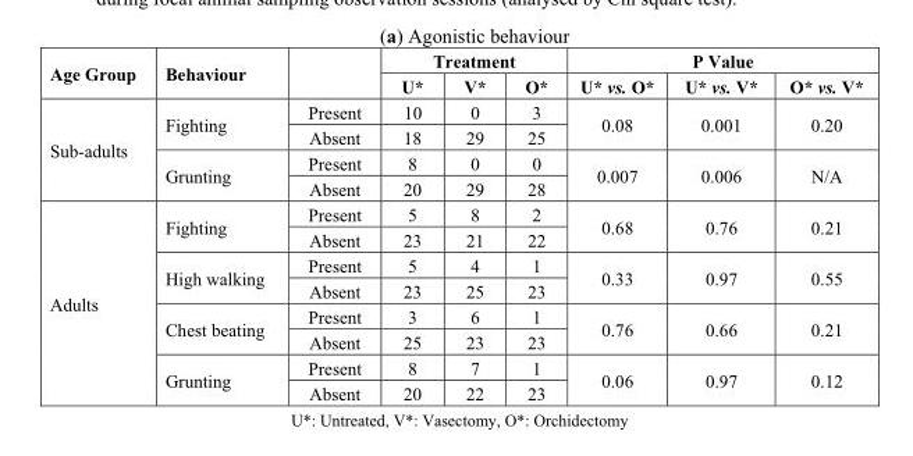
<table><thead><tr><td rowspan="2">Age Group</td><td rowspan="2">Behaviour</td><td rowspan="2"></td><td colspan="3">Treatment</td><td colspan="3">P Value</td></tr><tr><td>U*</td><td>V*</td><td>O*</td><td>U* vs. O*</td><td>U* vs. V*</td><td>O* vs. V*</td></tr></thead><tbody><tr><td rowspan="4">Sub-adults</td><td rowspan="2">Fighting</td><td>Present</td><td>10</td><td>0</td><td>3</td><td rowspan="2">0.08</td><td rowspan="2">0.001</td><td rowspan="2">0.20</td></tr><tr><td>Absent</td><td>18</td><td>29</td><td>25</td></tr><tr><td rowspan="2">Grunting</td><td>Present</td><td>8</td><td>0</td><td>0</td><td rowspan="2">0.007</td><td rowspan="2">0.006</td><td rowspan="2">N/A</td></tr><tr><td>Absent</td><td>20</td><td>29</td><td>28</td></tr><tr><td rowspan="8">Adults</td><td rowspan="2">Fighting</td><td>Present</td><td>5</td><td>8</td><td>2</td><td rowspan="2">0.68</td><td rowspan="2">0.76</td><td rowspan="2">0.21</td></tr><tr><td>Absent</td><td>23</td><td>21</td><td>22</td></tr><tr><td rowspan="2">High walking</td><td>Present</td><td>5</td><td>4</td><td>1</td><td rowspan="2">0.33</td><td rowspan="2">0.97</td><td rowspan="2">0.55</td></tr><tr><td>Absent</td><td>23</td><td>25</td><td>23</td></tr><tr><td rowspan="2">Chest beating</td><td>Present</td><td>3</td><td>6</td><td>1</td><td rowspan="2">0.76</td><td rowspan="2">0.66</td><td rowspan="2">0.21</td></tr><tr><td>Absent</td><td>25</td><td>23</td><td>23</td></tr><tr><td rowspan="2">Grunting</td><td>Present</td><td>8</td><td>7</td><td>1</td><td rowspan="2">0.06</td><td rowspan="2">0.97</td><td rowspan="2">0.12</td></tr><tr><td>Absent</td><td>20</td><td>22</td><td>23</td></tr></tbody></table>